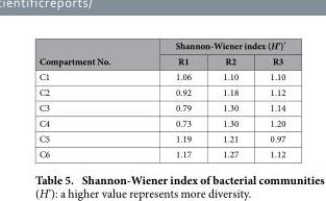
<table><thead><tr><td rowspan="2">Compartment No.</td><td colspan="3">Shannon-Wiener index (H’)*</td></tr><tr><td>R1</td><td>R2</td><td>R3</td></tr></thead><tbody><tr><td>C1</td><td>1.06</td><td>1.10</td><td>1.10</td></tr><tr><td>C2</td><td>0.92</td><td>1.18</td><td>1.12</td></tr><tr><td>C3</td><td>0.79</td><td>1.30</td><td>1.14</td></tr><tr><td>C4</td><td>0.73</td><td>1.30</td><td>1.20</td></tr><tr><td>C5</td><td>1.19</td><td>1.21</td><td>0.97</td></tr><tr><td>C6</td><td>1.17</td><td>1.27</td><td>1.12</td></tr></tbody></table>